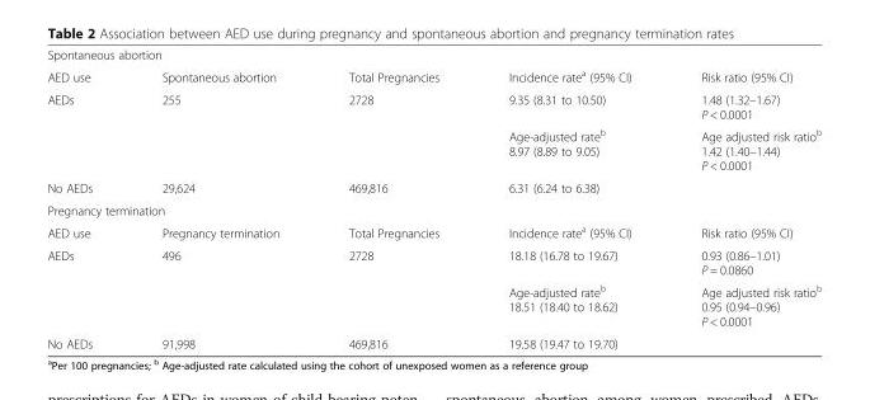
<table><tbody><tr><td colspan="5">Spontaneous abortion</td></tr><tr><td>AED use</td><td>Spontaneous abortion</td><td>Total Pregnancies</td><td>Incidence rate<sup>a</sup> (95% CI)</td><td>Risk ratio (95% CI)</td></tr><tr><td rowspan="2">AEDs</td><td>255</td><td>2728</td><td>9.35 (8.31 to 10.50)</td><td>1.48 (1.32–1.67) P &lt; 0.0001</td></tr><tr><td></td><td></td><td>Age-adjusted rate<sup>b</sup> 8.97 (8.89 to 9.05)</td><td>Age adjusted risk ratio<sup>b</sup> 1.42 (1.40–1.44) P &lt; 0.0001</td></tr><tr><td>No AEDs</td><td>29,624</td><td>469,816</td><td>6.31 (6.24 to 6.38)</td><td></td></tr><tr><td colspan="5">Pregnancy termination</td></tr><tr><td>AED use</td><td>Pregnancy termination</td><td>Total Pregnancies</td><td>Incidence rate<sup>a</sup> (95% CI)</td><td>Risk ratio (95% CI)</td></tr><tr><td rowspan="2">AEDs</td><td>496</td><td>2728</td><td>18.18 (16.78 to 19.67)</td><td>0.93 (0.86–1.01) P = 0.0860</td></tr><tr><td></td><td></td><td>Age-adjusted rate<sup>b</sup> 18.51 (18.40 to 18.62)</td><td>Age adjusted risk ratio<sup>b</sup> 0.95 (0.94–0.96) P &lt; 0.0001</td></tr><tr><td>No AEDs</td><td>91,998</td><td>469,816</td><td>19.58 (19.47 to 19.70)</td><td></td></tr></tbody></table>